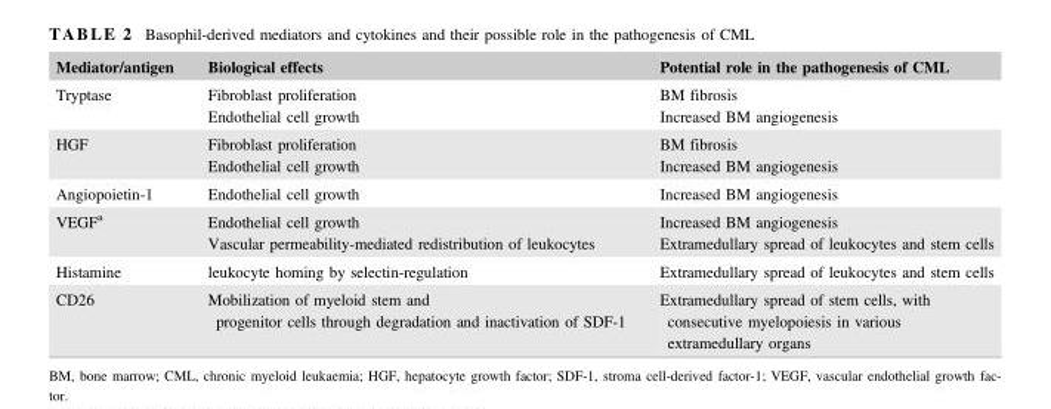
<table><thead><tr><td>Mediator/antigen</td><td>Biological effects</td><td>Potential role in the pathogenesis of CML</td></tr></thead><tbody><tr><td>Tryptase</td><td>Fibroblast proliferation Endothelial cell growth</td><td>BM fibrosis Increased BM angiogenesis</td></tr><tr><td>HGF</td><td>Fibroblast proliferation Endothelial cell growth</td><td>BM fibrosis Increased BM angiogenesis</td></tr><tr><td>Angiopoietin‐1</td><td>Endothelial cell growth</td><td>Increased BM angiogenesis</td></tr><tr><td>VEGF<sup>a</sup></td><td>Endothelial cell growth Vascular permeability‐mediated redistribution of leukocytes</td><td>Increased BM angiogenesis Extramedullary spread of leukocytes and stem cells</td></tr><tr><td>Histamine</td><td>leukocyte homing by selectin‐regulation</td><td>Extramedullary spread of leukocytes and stem cells</td></tr><tr><td>CD26</td><td>Mobilization of myeloid stem and progenitor cells through degradation and inactivation of SDF‐1</td><td>Extramedullary spread of stem cells, with consecutive myelopoiesis in various extramedullary organs</td></tr></tbody></table>